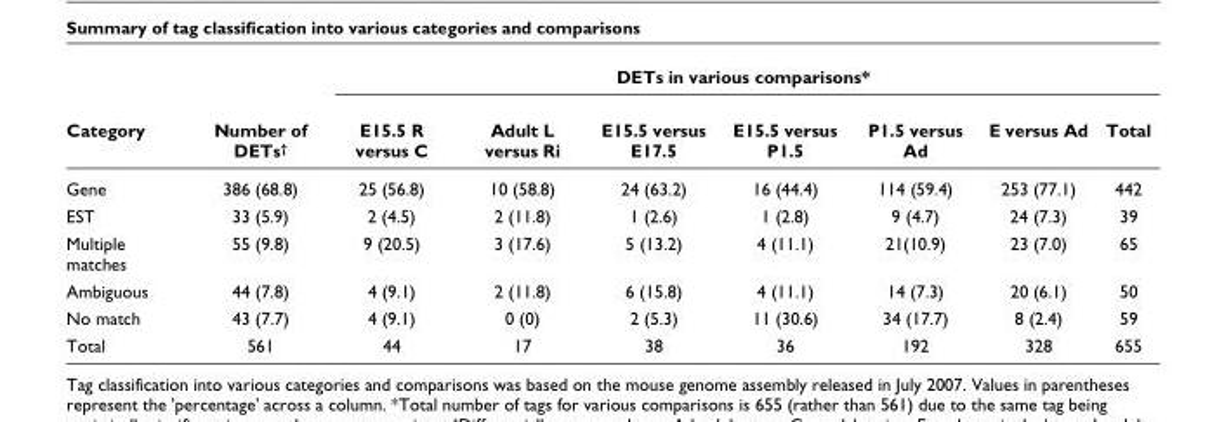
<table><thead><tr><td rowspan="2">Category</td><td rowspan="2">Number of DETs<sup>†</sup></td><td colspan="7">DETs in various comparisons*</td></tr><tr><td>E15.5 R versus C</td><td>Adult L versus Ri</td><td>E15.5 versus E17.5</td><td>E15.5 versus P1.5</td><td>P1.5 versus Ad</td><td>E versus Ad</td><td>Total</td></tr></thead><tbody><tr><td>Gene</td><td>386 (68.8)</td><td>25 (56.8)</td><td>10 (58.8)</td><td>24 (63.2)</td><td>16 (44.4)</td><td>114 (59.4)</td><td>253 (77.1)</td><td>442</td></tr><tr><td>EST</td><td>33 (5.9)</td><td>2 (4.5)</td><td>2 (11.8)</td><td>1 (2.6)</td><td>1 (2.8)</td><td>9 (4.7)</td><td>24 (7.3)</td><td>39</td></tr><tr><td>Multiple matches</td><td>55 (9.8)</td><td>9 (20.5)</td><td>3 (17.6)</td><td>5 (13.2)</td><td>4 (11.1)</td><td>21(10.9)</td><td>23 (7.0)</td><td>65</td></tr><tr><td>Ambiguous</td><td>44 (7.8)</td><td>4 (9.1)</td><td>2 (11.8)</td><td>6 (15.8)</td><td>4 (11.1)</td><td>14 (7.3)</td><td>20 (6.1)</td><td>50</td></tr><tr><td>No match</td><td>43 (7.7)</td><td>4 (9.1)</td><td>0 (0)</td><td>2 (5.3)</td><td>11 (30.6)</td><td>34 (17.7)</td><td>8 (2.4)</td><td>59</td></tr><tr><td>Total</td><td>561</td><td>44</td><td>17</td><td>38</td><td>36</td><td>192</td><td>328</td><td>655</td></tr></tbody></table>